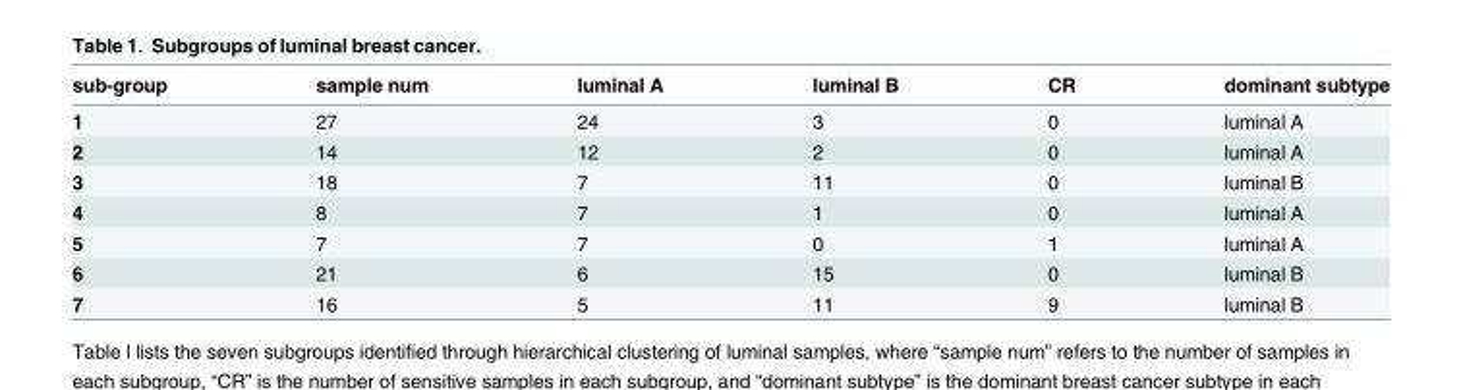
<table><thead><tr><td>sub-group</td><td>sample num</td><td>luminal A</td><td>luminal B</td><td>CR</td><td>dominant subtype</td></tr></thead><tbody><tr><td>1</td><td>27</td><td>24</td><td>3</td><td>0</td><td>luminal A</td></tr><tr><td>2</td><td>14</td><td>12</td><td>2</td><td>0</td><td>luminal A</td></tr><tr><td>3</td><td>18</td><td>7</td><td>11</td><td>0</td><td>luminal B</td></tr><tr><td>4</td><td>8</td><td>7</td><td>1</td><td>0</td><td>luminal A</td></tr><tr><td>5</td><td>7</td><td>7</td><td>0</td><td>1</td><td>luminal A</td></tr><tr><td>6</td><td>21</td><td>6</td><td>15</td><td>0</td><td>luminal B</td></tr><tr><td>7</td><td>16</td><td>5</td><td>11</td><td>9</td><td>luminal B</td></tr></tbody></table>